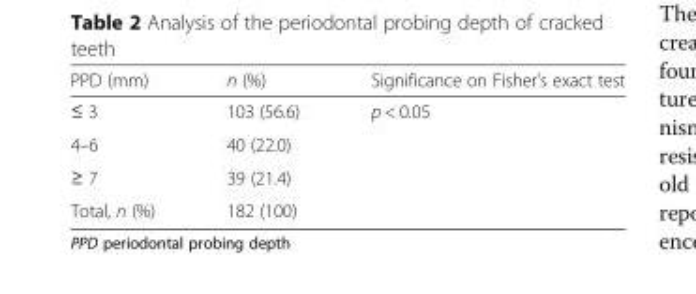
<table><thead><tr><td>PPD (mm)</td><td>n (%)</td><td>Significance on Fisher’s exact test</td></tr></thead><tbody><tr><td>≤ 3</td><td>103 (56.6)</td><td>p &lt; 0.05</td></tr><tr><td>4–6</td><td>40 (22.0)</td><td></td></tr><tr><td>≥ 7</td><td>39 (21.4)</td><td></td></tr><tr><td>Total, n (%)</td><td>182 (100)</td><td></td></tr></tbody></table>